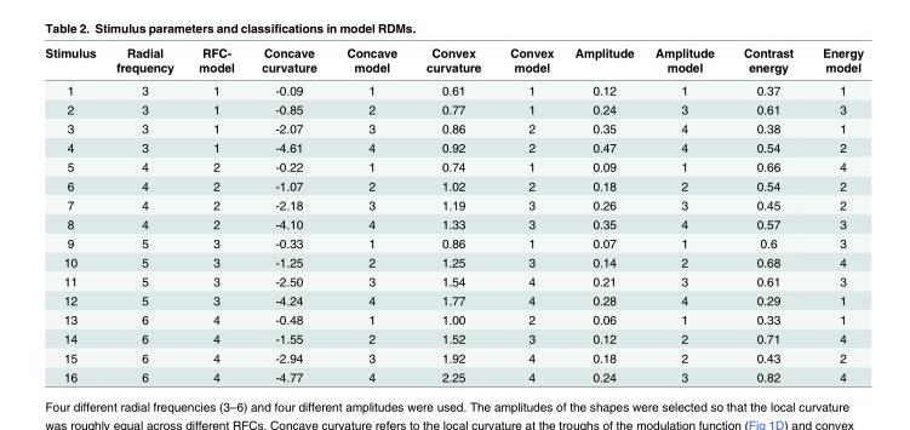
<table><thead><tr><td>Stimulus</td><td>Radial frequency</td><td>RFC- model</td><td>Concave curvature</td><td>Concave model</td><td>Convex curvature</td><td>Convex model</td><td>Amplitude</td><td>Amplitude model</td><td>Contrast energy</td><td>Energy model</td></tr></thead><tbody><tr><td>1</td><td>3</td><td>1</td><td>-0.09</td><td>1</td><td>0.61</td><td>1</td><td>0.12</td><td>1</td><td>0.37</td><td>1</td></tr><tr><td>2</td><td>3</td><td>1</td><td>-0.85</td><td>2</td><td>0.77</td><td>1</td><td>0.24</td><td>3</td><td>0.61</td><td>3</td></tr><tr><td>3</td><td>3</td><td>1</td><td>-2.07</td><td>3</td><td>0.86</td><td>2</td><td>0.35</td><td>4</td><td>0.38</td><td>1</td></tr><tr><td>4</td><td>3</td><td>1</td><td>-4.61</td><td>4</td><td>0.92</td><td>2</td><td>0.47</td><td>4</td><td>0.54</td><td>2</td></tr><tr><td>5</td><td>4</td><td>2</td><td>-0.22</td><td>1</td><td>0.74</td><td>1</td><td>0.09</td><td>1</td><td>0.66</td><td>4</td></tr><tr><td>6</td><td>4</td><td>2</td><td>-1.07</td><td>2</td><td>1.02</td><td>2</td><td>0.18</td><td>2</td><td>0.54</td><td>2</td></tr><tr><td>7</td><td>4</td><td>2</td><td>-2.18</td><td>3</td><td>1.19</td><td>3</td><td>0.26</td><td>3</td><td>0.45</td><td>2</td></tr><tr><td>8</td><td>4</td><td>2</td><td>-4.10</td><td>4</td><td>1.33</td><td>3</td><td>0.35</td><td>4</td><td>0.57</td><td>3</td></tr><tr><td>9</td><td>5</td><td>3</td><td>-0.33</td><td>1</td><td>0.86</td><td>1</td><td>0.07</td><td>1</td><td>0.6</td><td>3</td></tr><tr><td>10</td><td>5</td><td>3</td><td>-1.25</td><td>2</td><td>1.25</td><td>3</td><td>0.14</td><td>2</td><td>0.68</td><td>4</td></tr><tr><td>11</td><td>5</td><td>3</td><td>-2.50</td><td>3</td><td>1.54</td><td>4</td><td>0.21</td><td>3</td><td>0.61</td><td>3</td></tr><tr><td>12</td><td>5</td><td>3</td><td>-4.24</td><td>4</td><td>1.77</td><td>4</td><td>0.28</td><td>4</td><td>0.29</td><td>1</td></tr><tr><td>13</td><td>6</td><td>4</td><td>-0.48</td><td>1</td><td>1.00</td><td>2</td><td>0.06</td><td>1</td><td>0.33</td><td>1</td></tr><tr><td>14</td><td>6</td><td>4</td><td>-1.55</td><td>2</td><td>1.52</td><td>3</td><td>0.12</td><td>2</td><td>0.71</td><td>4</td></tr><tr><td>15</td><td>6</td><td>4</td><td>-2.94</td><td>3</td><td>1.92</td><td>4</td><td>0.18</td><td>2</td><td>0.43</td><td>2</td></tr><tr><td>16</td><td>6</td><td>4</td><td>-4.77</td><td>4</td><td>2.25</td><td>4</td><td>0.24</td><td>3</td><td>0.82</td><td>4</td></tr></tbody></table>